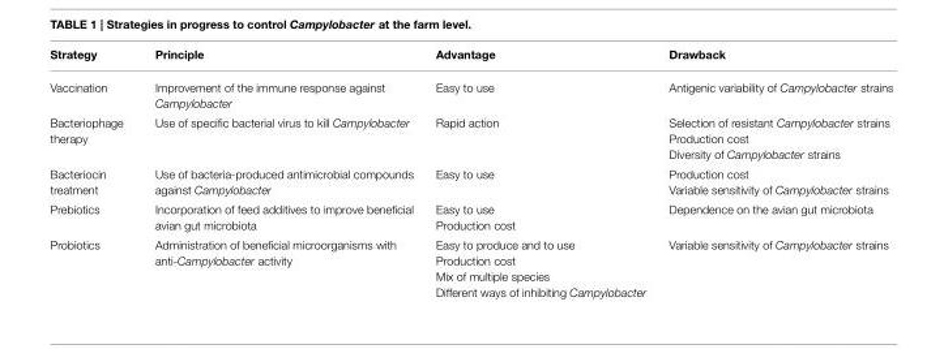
<table><thead><tr><td>Strategy</td><td>Principle</td><td>Advantage</td><td>Drawback</td></tr></thead><tbody><tr><td>Vaccination</td><td>Improvement of the immune response against Campylobacter</td><td>Easy to use</td><td>Antigenic variability of Campylobacter strains</td></tr><tr><td>Bacteriophage therapy</td><td>Use of specific bacterial virus to kill Campylobacter</td><td>Rapid action</td><td>Selection of resistant Campylobacter strains Production cost Diversity of Campylobacter strains</td></tr><tr><td>Bacteriocin treatment</td><td>Use of bacteria-produced antimicrobial compounds against Campylobacter</td><td>Easy to use</td><td>Production cost Variable sensitivity of Campylobacter strains</td></tr><tr><td>Prebiotics</td><td>Incorporation of feed additives to improve beneficial avian gut microbiota</td><td>Easy to use Production cost</td><td>Dependence on the avian gut microbiota</td></tr><tr><td>Probiotics</td><td>Administration of beneficial microorganisms with anti-Campylobacter activity</td><td>Easy to produce and to use Production cost Mix of multiple species Different ways of inhibiting Campylobacter</td><td>Variable sensitivity of Campylobacter strains</td></tr></tbody></table>